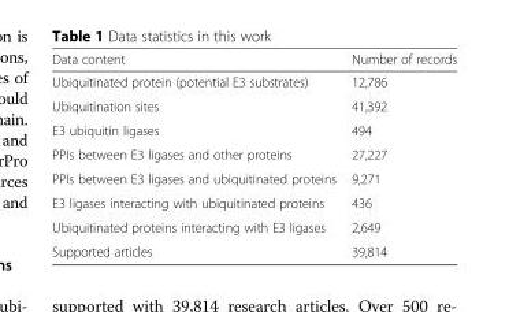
<table><thead><tr><td>Data content</td><td>Number of records</td></tr></thead><tbody><tr><td>Ubiquitinated protein (potential E3 substrates)</td><td>12,786</td></tr><tr><td>Ubiquitination sites</td><td>41,392</td></tr><tr><td>E3 ubiquitin ligases</td><td>494</td></tr><tr><td>PPIs between E3 ligases and other proteins</td><td>27,227</td></tr><tr><td>PPIs between E3 ligases and ubiquitinated proteins</td><td>9,271</td></tr><tr><td>E3 ligases interacting with ubiquitinated proteins</td><td>436</td></tr><tr><td>Ubiquitinated proteins interacting with E3 ligases</td><td>2,649</td></tr><tr><td>Supported articles</td><td>39,814</td></tr></tbody></table>